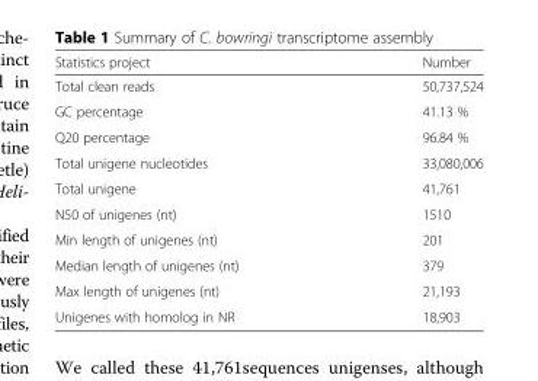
<table><thead><tr><td>Statistics project</td><td>Number</td></tr></thead><tbody><tr><td>Total clean reads</td><td>50,737,524</td></tr><tr><td>GC percentage</td><td>41.13 %</td></tr><tr><td>Q20 percentage</td><td>96.84 %</td></tr><tr><td>Total unigene nucleotides</td><td>33,080,006</td></tr><tr><td>Total unigene</td><td>41,761</td></tr><tr><td>N50 of unigenes (nt)</td><td>1510</td></tr><tr><td>Min length of unigenes (nt)</td><td>201</td></tr><tr><td>Median length of unigenes (nt)</td><td>379</td></tr><tr><td>Max length of unigenes (nt)</td><td>21,193</td></tr><tr><td>Unigenes with homolog in NR</td><td>18,903</td></tr></tbody></table>